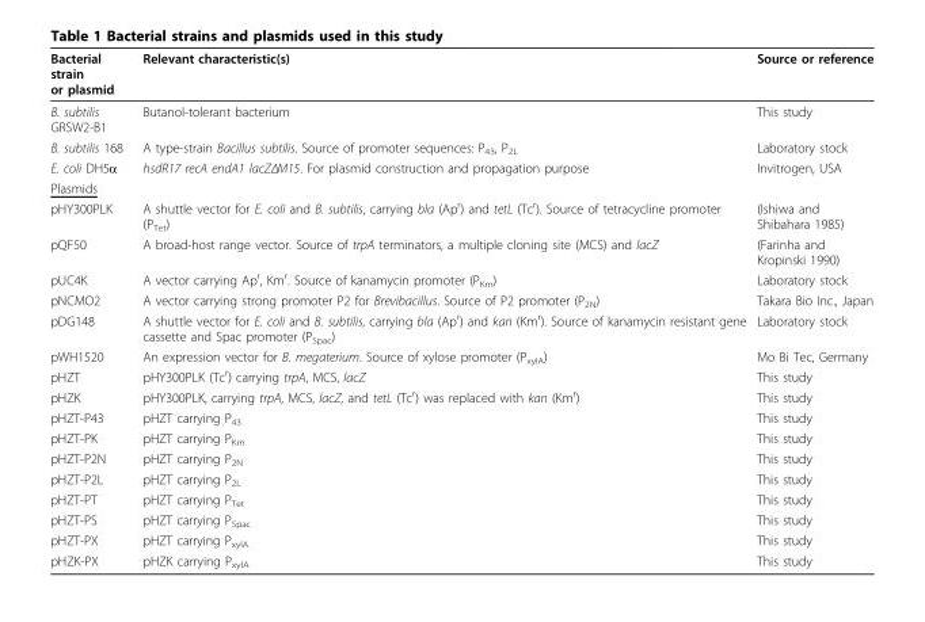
<table><thead><tr><td>Bacterial strain or plasmid</td><td>Relevant characteristic(s)</td><td>Source or reference</td></tr></thead><tbody><tr><td>B. subtilis GRSW2-B1</td><td>Butanol-tolerant bacterium</td><td>This study</td></tr><tr><td>B. subtilis 168</td><td>A type-strain Bacillus subtilis. Source of promoter sequences: P<sub>43</sub>, P<sub>2L</sub></td><td>Laboratory stock</td></tr><tr><td>E. coli DH5α</td><td>hsdR17 recA endA1 lacZΔM15. For plasmid construction and propagation purpose</td><td>Invitrogen, USA</td></tr><tr><td colspan="3">Plasmids</td></tr><tr><td>pHY300PLK</td><td>A shuttle vector for E. coli and B. subtilis, carrying bla (Ap<sup>r</sup>) and tetL (Tc<sup>r</sup>). Source of tetracycline promoter (P<sub>Tet</sub>)</td><td>(Ishiwa and Shibahara 1985)</td></tr><tr><td>pQF50</td><td>A broad-host range vector. Source of trpA terminators, a multiple cloning site (MCS) and lacZ</td><td>(Farinha and Kropinski 1990)</td></tr><tr><td>pUC4K</td><td>A vector carrying Ap<sup>r</sup>, Km<sup>r</sup>. Source of kanamycin promoter (P<sub>Km</sub>)</td><td>Laboratory stock</td></tr><tr><td>pNCMO2</td><td>A vector carrying strong promoter P2 for Brevibacillus. Source of P2 promoter (P<sub>2N</sub>)</td><td>Takara Bio Inc., Japan</td></tr><tr><td>pDG148</td><td>A shuttle vector for E. coli and B. subtilis, carrying bla (Ap<sup>r</sup>) and kan (Km<sup>r</sup>). Source of kanamycin resistant gene cassette and Spac promoter (P<sub>Spac</sub>)</td><td>Laboratory stock</td></tr><tr><td>pWH1520</td><td>An expression vector for B. megaterium. Source of xylose promoter (P<sub>xylA</sub>)</td><td>Mo Bi Tec, Germany</td></tr><tr><td>pHZT</td><td>pHY300PLK (Tc<sup>r</sup>) carrying trpA, MCS, lacZ</td><td>This study</td></tr><tr><td>pHZK</td><td>pHY300PLK, carrying trpA, MCS, lacZ, and tetL (Tc<sup>r</sup>) was replaced with kan (Km<sup>r</sup>)</td><td>This study</td></tr><tr><td>pHZT-P43</td><td>pHZT carrying P<sub>43</sub></td><td>This study</td></tr><tr><td>pHZT-PK</td><td>pHZT carrying P<sub>Km</sub></td><td>This study</td></tr><tr><td>pHZT-P2N</td><td>pHZT carrying P<sub>2N</sub></td><td>This study</td></tr><tr><td>pHZT-P2L</td><td>pHZT carrying P<sub>2L</sub></td><td>This study</td></tr><tr><td>pHZT-PT</td><td>pHZT carrying P<sub>Tet</sub></td><td>This study</td></tr><tr><td>pHZT-PS</td><td>pHZT carrying P<sub>Spac</sub></td><td>This study</td></tr><tr><td>pHZT-PX</td><td>pHZT carrying P<sub>xylA</sub></td><td>This study</td></tr><tr><td>pHZK-PX</td><td>pHZK carrying P<sub>xylA</sub></td><td>This study</td></tr></tbody></table>